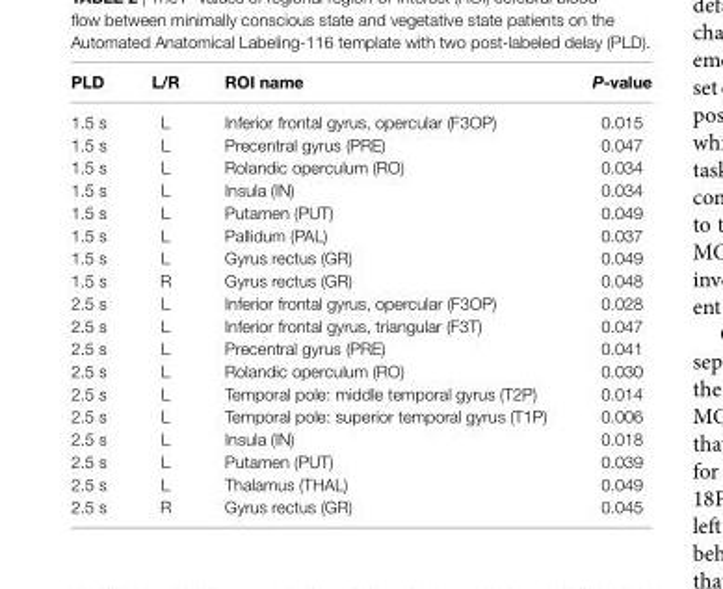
<table><thead><tr><td>PlD</td><td>l/r</td><td>rOi name</td><td>P-value</td></tr></thead><tbody><tr><td>1.5 s</td><td>L</td><td>Inferior frontal gyrus, opercular (F3OP)</td><td>0.015</td></tr><tr><td>1.5 s</td><td>L</td><td>Precentral gyrus (PRE)</td><td>0.047</td></tr><tr><td>1.5 s</td><td>L</td><td>Rolandic operculum (RO)</td><td>0.034</td></tr><tr><td>1.5 s</td><td>L</td><td>Insula (IN)</td><td>0.034</td></tr><tr><td>1.5 s</td><td>L</td><td>Putamen (PUT)</td><td>0.049</td></tr><tr><td>1.5 s</td><td>L</td><td>Pallidum (PAL)</td><td>0.037</td></tr><tr><td>1.5 s</td><td>L</td><td>Gyrus rectus (GR)</td><td>0.049</td></tr><tr><td>1.5 s</td><td>R</td><td>Gyrus rectus (GR)</td><td>0.048</td></tr><tr><td>2.5 s</td><td>L</td><td>Inferior frontal gyrus, opercular (F3OP)</td><td>0.028</td></tr><tr><td>2.5 s</td><td>L</td><td>Inferior frontal gyrus, triangular (F3T)</td><td>0.047</td></tr><tr><td>2.5 s</td><td>L</td><td>Precentral gyrus (PRE)</td><td>0.041</td></tr><tr><td>2.5 s</td><td>L</td><td>Rolandic operculum (RO)</td><td>0.030</td></tr><tr><td>2.5 s</td><td>L</td><td>Temporal pole: middle temporal gyrus (T2P)</td><td>0.014</td></tr><tr><td>2.5 s</td><td>L</td><td>Temporal pole: superior temporal gyrus (T1P)</td><td>0.006</td></tr><tr><td>2.5 s</td><td>L</td><td>Insula (IN)</td><td>0.018</td></tr><tr><td>2.5 s</td><td>L</td><td>Putamen (PUT)</td><td>0.039</td></tr><tr><td>2.5 s</td><td>L</td><td>Thalamus (THAL)</td><td>0.049</td></tr><tr><td>2.5 s</td><td>R</td><td>Gyrus rectus (GR)</td><td>0.045</td></tr></tbody></table>